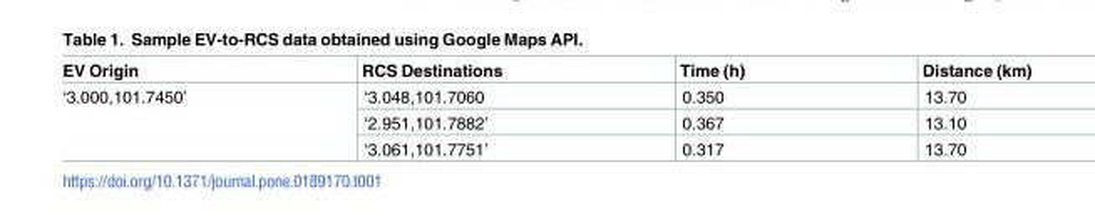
<table><thead><tr><td>EV Origin</td><td>RCS Destinations</td><td>Time (h)</td><td>Distance (km)</td></tr></thead><tbody><tr><td rowspan="3">‘3.000,101.7450’</td><td>‘3.048,101.7060</td><td>0.350</td><td>13.70</td></tr><tr><td>‘2.951,101.7882’</td><td>0.367</td><td>13.10</td></tr><tr><td>‘3.061,101.7751’</td><td>0.317</td><td>13.70</td></tr></tbody></table>